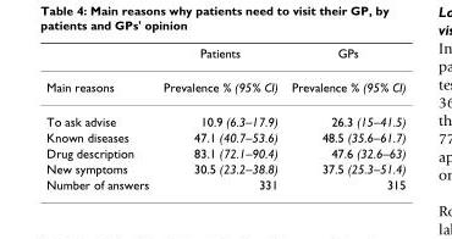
<table><thead><tr><td></td><td>Patients</td><td>GPs</td></tr></thead><tbody><tr><td>Main reasons</td><td>Prevalence % (95% CI)</td><td>Prevalence % (95% CI)</td></tr><tr><td>To ask advise</td><td>10.9 (6.3–17.9)</td><td>26.3 (15–41.5)</td></tr><tr><td>Known diseases</td><td>47.1 (40.7–53.6)</td><td>48.5 (35.6–61.7)</td></tr><tr><td>Drug description</td><td>83.1 (72.1–90.4)</td><td>47.6 (32.6–63)</td></tr><tr><td>New symptoms</td><td>30.5 (23.2–38.8)</td><td>37.5 (25.3–51.4)</td></tr><tr><td>Number of answers</td><td>331</td><td>315</td></tr></tbody></table>